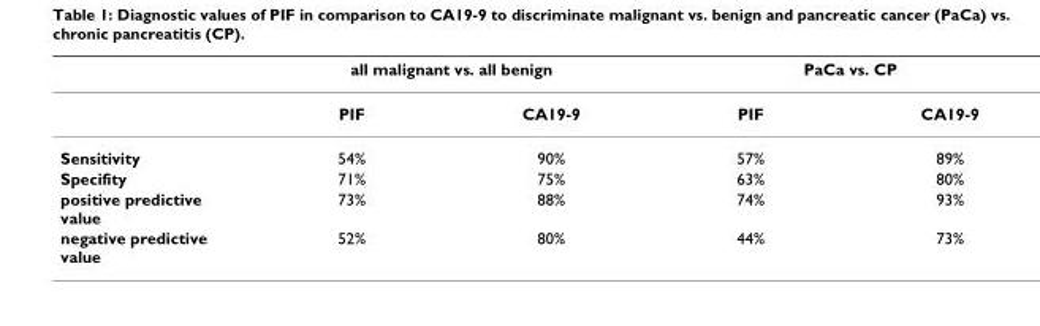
<table><thead><tr><td rowspan="2"></td><td colspan="2">all malignant vs. all benign</td><td colspan="2">PaCa vs. CP</td></tr><tr><td>PIF</td><td>CA19-9</td><td>PIF</td><td>CA19-9</td></tr></thead><tbody><tr><td>Sensitivity</td><td>54%</td><td>90%</td><td>57%</td><td>89%</td></tr><tr><td>Specifity</td><td>71%</td><td>75%</td><td>63%</td><td>80%</td></tr><tr><td>positive predictive value</td><td>73%</td><td>88%</td><td>74%</td><td>93%</td></tr><tr><td>negative predictive value</td><td>52%</td><td>80%</td><td>44%</td><td>73%</td></tr></tbody></table>